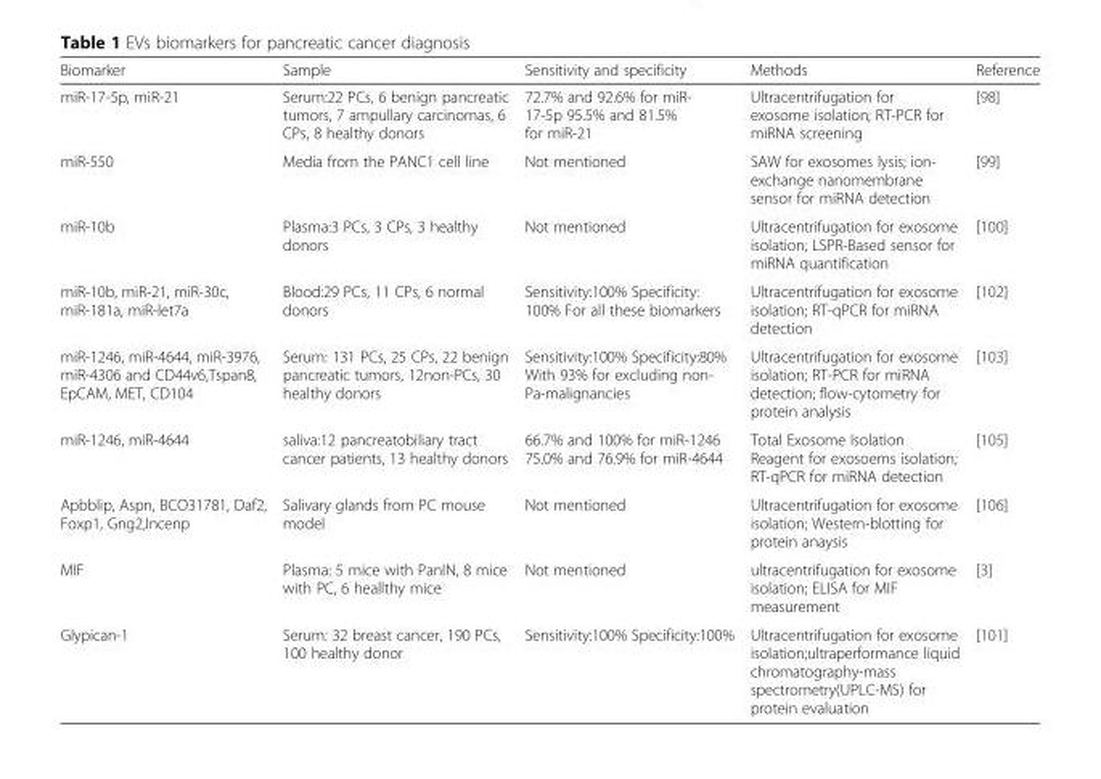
<table><thead><tr><td>Biomarker</td><td>Sample</td><td>Sensitivity and specificity</td><td>Methods</td><td>Reference</td></tr></thead><tbody><tr><td>miR-17-5p, miR-21</td><td>Serum:22 PCs, 6 benign pancreatic tumors, 7 ampullary carcinomas, 6 CPs, 8 healthy donors</td><td>72.7% and 92.6% for miR- 17-5p 95.5% and 81.5% for miR-21</td><td>Ultracentrifugation for exosome isolation; RT-PCR for miRNA screening</td><td>[98]</td></tr><tr><td>miR-550</td><td>Media from the PANC1 cell line</td><td>Not mentioned</td><td>SAW for exosomes lysis; ion- exchange nanomembrane sensor for miRNA detection</td><td>[99]</td></tr><tr><td>miR-10b</td><td>Plasma:3 PCs, 3 CPs, 3 healthy donors</td><td>Not mentioned</td><td>Ultracentrifugation for exosome isolation; LSPR-Based sensor for miRNA quantification</td><td>[100]</td></tr><tr><td>miR-10b, miR-21, miR-30c, miR-181a, miR-let7a</td><td>Blood:29 PCs, 11 CPs, 6 normal donors</td><td>Sensitivity:100% Specificity: 100% For all these biomarkers</td><td>Ultracentrifugation for exosome isolation; RT-qPCR for miRNA detection</td><td>[102]</td></tr><tr><td>miR-1246, miR-4644, miR-3976, miR-4306 and CD44v6,Tspan8, EpCAM, MET, CD104</td><td>Serum: 131 PCs, 25 CPs, 22 benign pancreatic tumors, 12non-PCs, 30 healthy donors</td><td>Sensitivity:100% Specificity:80% With 93% for excluding non- Pa-malignancies</td><td>Ultracentrifugation for exosome isolation; RT-PCR for miRNA detection; flow-cytometry for protein analysis</td><td>[103]</td></tr><tr><td>miR-1246, miR-4644</td><td>saliva:12 pancreatobiliary tract cancer patients, 13 healthy donors</td><td>66.7% and 100% for miR-1246 75.0% and 76.9% for miR-4644</td><td>Total Exosome Isolation Reagent for exosoems isolation; RT-qPCR for miRNA detection</td><td>[105]</td></tr><tr><td>Apbblip, Aspn, BCO31781, Daf2, Foxp1, Gng2,Incenp</td><td>Salivary glands from PC mouse model</td><td>Not mentioned</td><td>Ultracentrifugation for exosome isolation; Western-blotting for protein anaysis</td><td>[106]</td></tr><tr><td>MIF</td><td>Plasma: 5 mice with PanIN, 8 mice with PC, 6 heallthy mice</td><td>Not mentioned</td><td>ultracentrifugation for exosome isolation; ELISA for MIF measurement</td><td>[3]</td></tr><tr><td>Glypican-1</td><td>Serum: 32 breast cancer, 190 PCs, 100 healthy donor</td><td>Sensitivity:100% Specificity:100%</td><td>Ultracentrifugation for exosome isolation;ultraperformance liquid chromatography-mass spectrometry(UPLC-MS) for protein evaluation</td><td>[101]</td></tr></tbody></table>